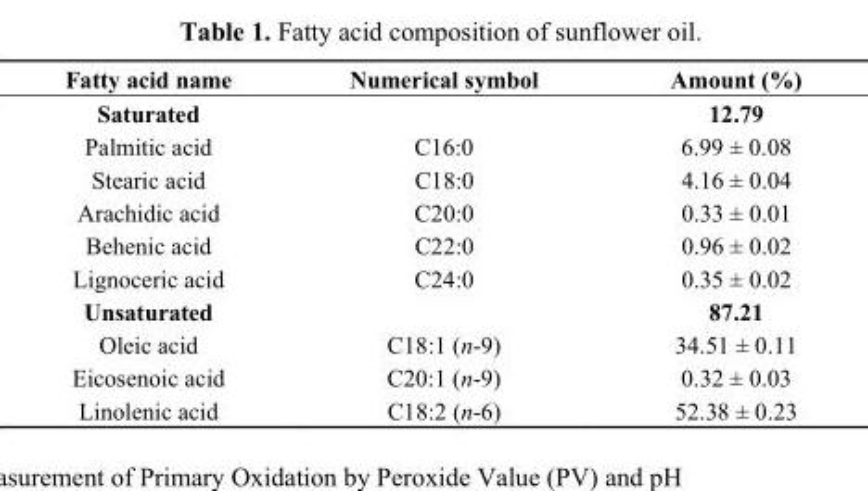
<table><thead><tr><td>Fatty acid name</td><td>Numerical symbol</td><td>Amount (%)</td></tr></thead><tbody><tr><td>Saturated</td><td></td><td>12.79</td></tr><tr><td>Palmitic acid</td><td>C16:0</td><td>6.99 ± 0.08</td></tr><tr><td>Stearic acid</td><td>C18:0</td><td>4.16 ± 0.04</td></tr><tr><td>Arachidic acid</td><td>C20:0</td><td>0.33 ± 0.01</td></tr><tr><td>Behenic acid</td><td>C22:0</td><td>0.96 ± 0.02</td></tr><tr><td>Lignoceric acid</td><td>C24:0</td><td>0.35 ± 0.02</td></tr><tr><td>Unsaturated</td><td></td><td>87.21</td></tr><tr><td>Oleic acid</td><td>C18:1 (n-9)</td><td>34.51 ± 0.11</td></tr><tr><td>Eicosenoic acid</td><td>C20:1 (n-9)</td><td>0.32 ± 0.03</td></tr><tr><td>Linolenic acid</td><td>C18:2 (n-6)</td><td>52.38 ± 0.23</td></tr></tbody></table>